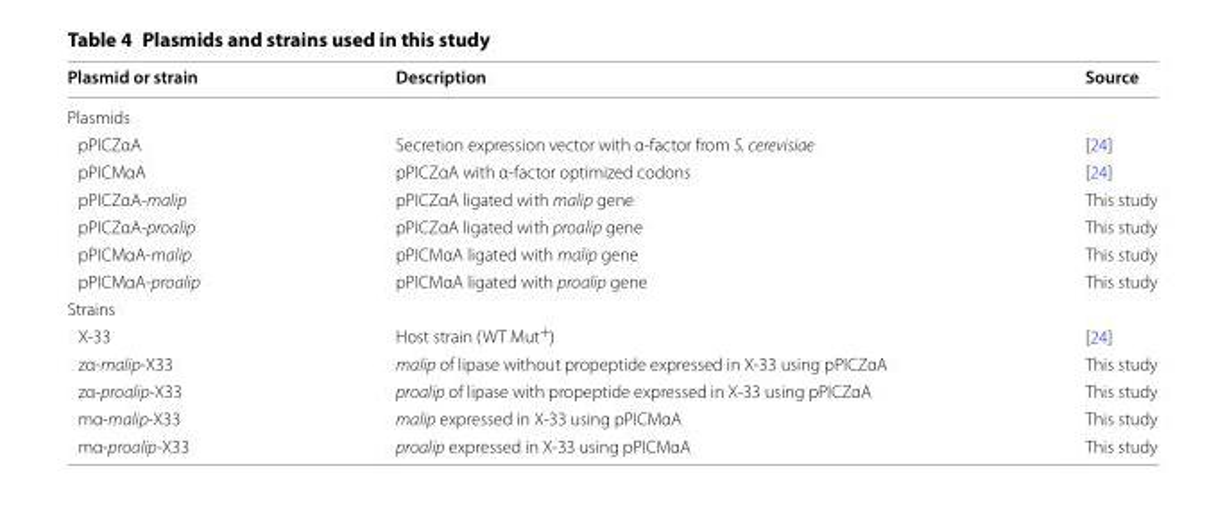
<table><thead><tr><td>Plasmid or strain</td><td>Description</td><td>Source</td></tr></thead><tbody><tr><td colspan="3">Plasmids</td></tr><tr><td>pPICZαA</td><td>Secretion expression vector with α-factor from S. cerevisiae</td><td>[24]</td></tr><tr><td>pPICMαA</td><td>pPICZαA with α-factor optimized codons</td><td>[24]</td></tr><tr><td>pPICZαA-malip</td><td>pPICZαA ligated with malip gene</td><td>This study</td></tr><tr><td>pPICZαA-proalip</td><td>pPICZαA ligated with proalip gene</td><td>This study</td></tr><tr><td>pPICMαA-malip</td><td>pPICMαA ligated with malip gene</td><td>This study</td></tr><tr><td>pPICMαA-proalip</td><td>pPICMαA ligated with proalip gene</td><td>This study</td></tr><tr><td colspan="3">Strains</td></tr><tr><td>X-33</td><td>Host strain (WT Mut<sup>+</sup>)</td><td>[24]</td></tr><tr><td>zα-malip-X33</td><td>malip of lipase without propeptide expressed in X-33 using pPICZαA</td><td>This study</td></tr><tr><td>zα-proalip-X33</td><td>proalip of lipase with propeptide expressed in X-33 using pPICZαA</td><td>This study</td></tr><tr><td>mα-malip-X33</td><td>malip expressed in X-33 using pPICMαA</td><td>This study</td></tr><tr><td>mα-proalip-X33</td><td>proalip expressed in X-33 using pPICMαA</td><td>This study</td></tr></tbody></table>